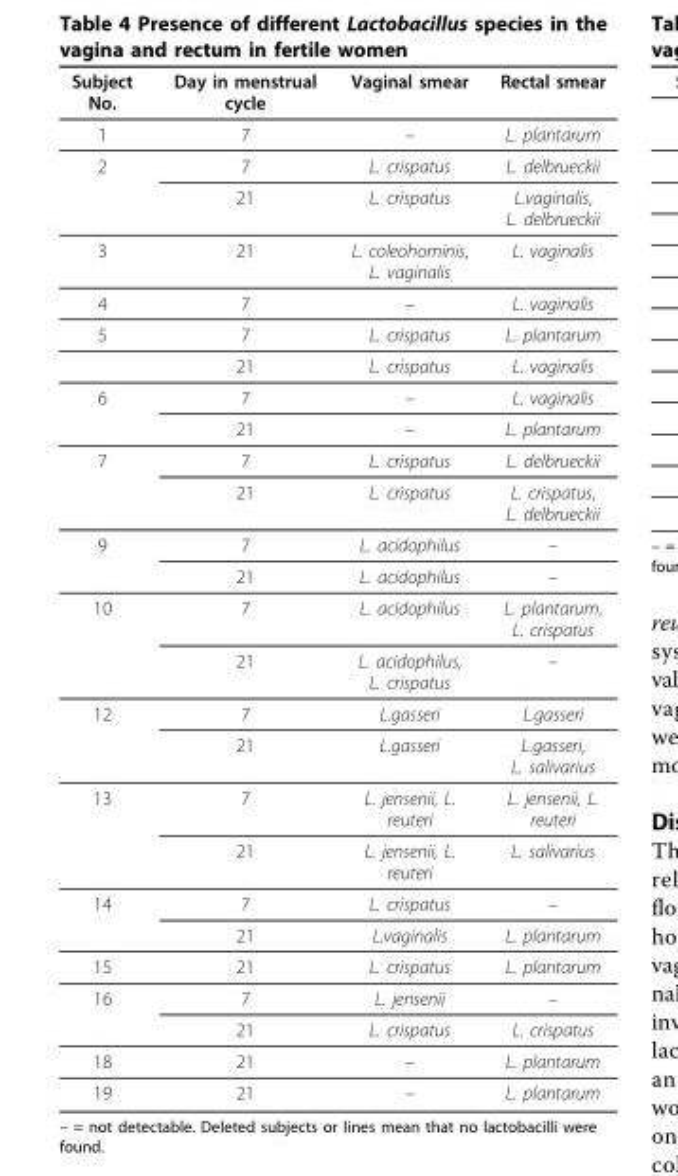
<table><thead><tr><td>Subject No.</td><td>Day in menstrual cycle</td><td>Vaginal smear</td><td>Rectal smear</td></tr></thead><tbody><tr><td>1</td><td>7</td><td>–</td><td>L. plantarum</td></tr><tr><td rowspan="2">2</td><td>7</td><td>L. crispatus</td><td>L. delbrueckii</td></tr><tr><td>21</td><td>L. crispatus</td><td>L.vaginalis, L. delbrueckii</td></tr><tr><td>3</td><td>21</td><td>L. coleohominis, L. vaginalis</td><td>L. vaginalis</td></tr><tr><td>4</td><td>7</td><td>–</td><td>L. vaginalis</td></tr><tr><td rowspan="2">5</td><td>7</td><td>L. crispatus</td><td>L. plantarum</td></tr><tr><td>21</td><td>L. crispatus</td><td>L. vaginalis</td></tr><tr><td rowspan="2">6</td><td>7</td><td>–</td><td>L. vaginalis</td></tr><tr><td>21</td><td>–</td><td>L. plantarum</td></tr><tr><td rowspan="2">7</td><td>7</td><td>L. crispatus</td><td>L. delbrueckii</td></tr><tr><td>21</td><td>L. crispatus</td><td>L. crispatus, L. delbrueckii</td></tr><tr><td rowspan="2">9</td><td>7</td><td>L. acidophilus</td><td>–</td></tr><tr><td>21</td><td>L. acidophilus</td><td>–</td></tr><tr><td rowspan="2">10</td><td>7</td><td>L. acidophilus</td><td>L. plantarum, L. crispatus</td></tr><tr><td>21</td><td>L. acidophilus, L. crispatus</td><td>–</td></tr><tr><td rowspan="2">12</td><td>7</td><td>L.gasseri</td><td>L.gasseri</td></tr><tr><td>21</td><td>L.gasseri</td><td>L.gasseri, L. salivarius</td></tr><tr><td rowspan="2">13</td><td>7</td><td>L. jensenii, L. reuteri</td><td>L. jensenii, L. reuteri</td></tr><tr><td>21</td><td>L. jensenii, L. reuteri</td><td>L. salivarius</td></tr><tr><td rowspan="2">14</td><td>7</td><td>L. crispatus</td><td>–</td></tr><tr><td>21</td><td>L.vaginalis</td><td>L. plantarum</td></tr><tr><td>15</td><td>21</td><td>L. crispatus</td><td>L. plantarum</td></tr><tr><td rowspan="2">16</td><td>7</td><td>L. jensenii</td><td>–</td></tr><tr><td>21</td><td>L. crispatus</td><td>L. crispatus</td></tr><tr><td>18</td><td>21</td><td>–</td><td>L. plantarum</td></tr><tr><td>19</td><td>21</td><td>–</td><td>L. plantarum</td></tr></tbody></table>